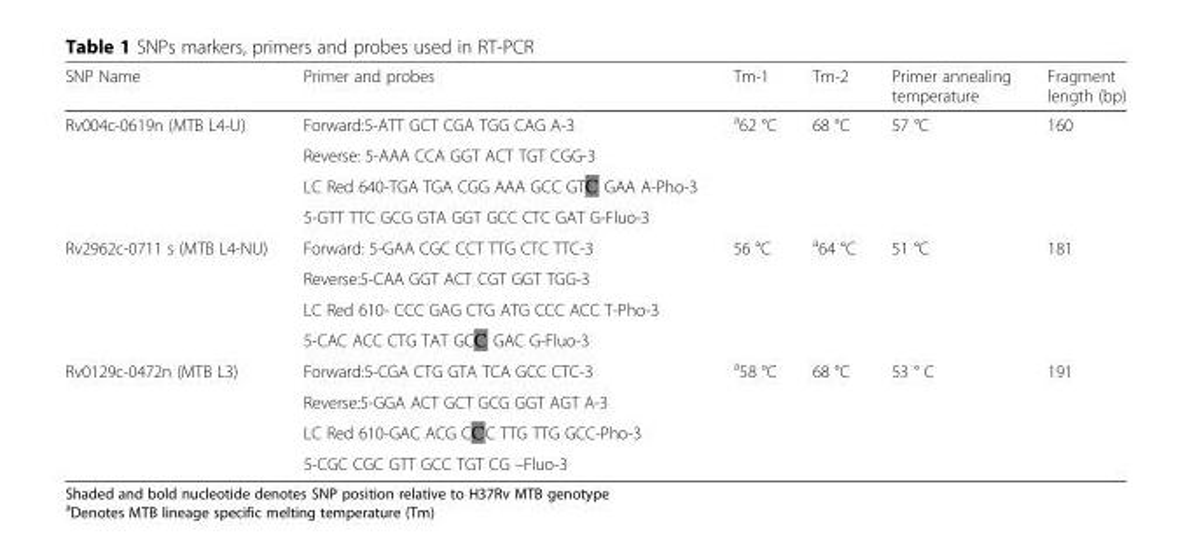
<table><thead><tr><td>SNP Name</td><td>Primer and probes</td><td>Tm-1</td><td>Tm-2</td><td>Primer annealing temperature</td><td>Fragment length (bp)</td></tr></thead><tbody><tr><td rowspan="4">Rv004c-0619n (MTB L4-U)</td><td>Forward:5-ATT GCT CGA TGG CAG A-3</td><td rowspan="4"><sup>a</sup>62 °C</td><td rowspan="4">68 °C</td><td rowspan="4">57 °C</td><td rowspan="4">160</td></tr><tr><td>Reverse: 5-AAA CCA GGT ACT TGT CGG-3</td></tr><tr><td>LC Red 640-TGA TGA CGG AAA GCC GT GAA A-Pho-3</td></tr><tr><td>5-GTT TTC GCG GTA GGT GCC CTC GAT G-Fluo-3</td></tr><tr><td rowspan="4">Rv2962c-0711 s (MTB L4-NU)</td><td>Forward: 5-GAA CGC CCT TTG CTC TTC-3</td><td rowspan="4">56 °C</td><td rowspan="4"><sup>a</sup>64 °C</td><td rowspan="4">51 °C</td><td rowspan="4">181</td></tr><tr><td>Reverse:5-CAA GGT ACT CGT GGT TGG-3</td></tr><tr><td>LC Red 610- CCC GAG CTG ATG CCC ACC T-Pho-3</td></tr><tr><td>5-CAC ACC CTG TAT GC GAC G-Fluo-3</td></tr><tr><td rowspan="4">Rv0129c-0472n (MTB L3)</td><td>Forward:5-CGA CTG GTA TCA GCC CTC-3</td><td rowspan="4"><sup>a</sup>58 °C</td><td rowspan="4">68 °C</td><td rowspan="4">53 ° C</td><td rowspan="4">191</td></tr><tr><td>Reverse:5-GGA ACT GCT GCG GGT AGT A-3</td></tr><tr><td>LC Red 610-GAC ACG C C TTG TTG GCC-Pho-3</td></tr><tr><td>5-CGC CGC GTT GCC TGT CG –Fluo-3</td></tr></tbody></table>